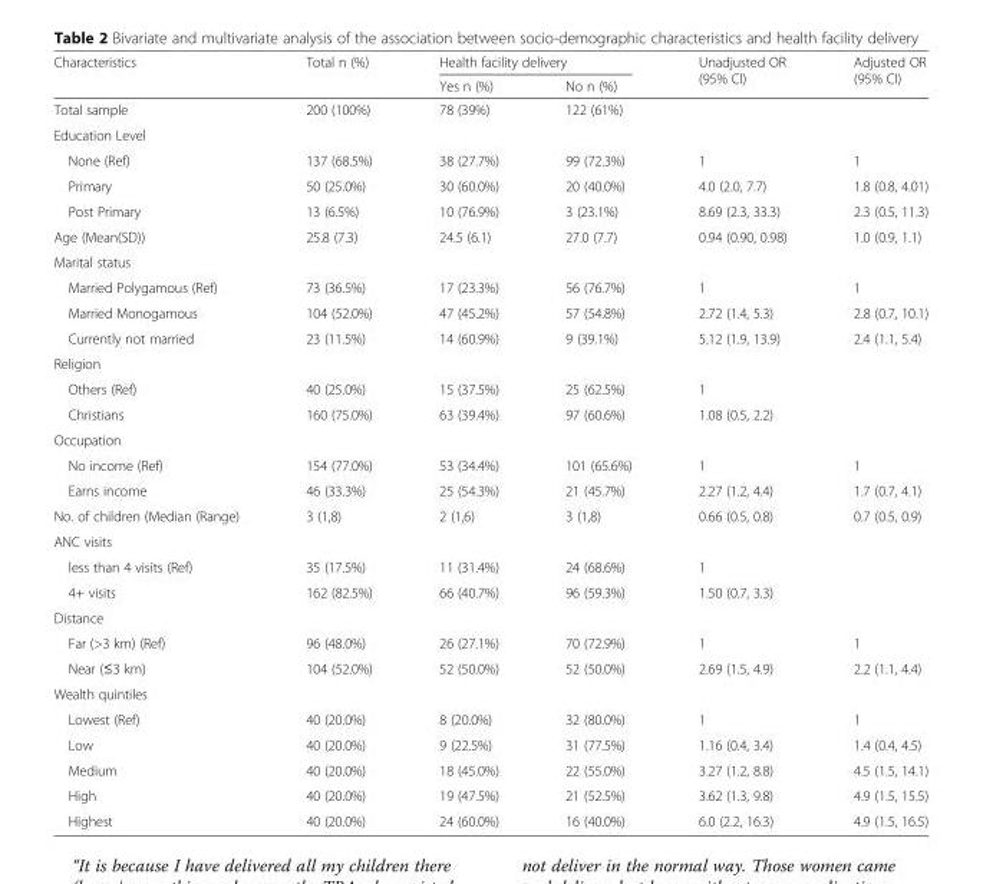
<table><thead><tr><td rowspan="2">Characteristics</td><td rowspan="2">Total n (%)</td><td colspan="2">Health facility delivery</td><td rowspan="2">Unadjusted OR (95% CI)</td><td rowspan="2">Adjusted OR (95% CI)</td></tr><tr><td>Yes n (%)</td><td>No n (%)</td></tr></thead><tbody><tr><td>Total sample</td><td>200 (100%)</td><td>78 (39%)</td><td>122 (61%)</td><td></td><td></td></tr><tr><td colspan="6">Education Level</td></tr><tr><td>None (Ref)</td><td>137 (68.5%)</td><td>38 (27.7%)</td><td>99 (72.3%)</td><td>1</td><td>1</td></tr><tr><td>Primary</td><td>50 (25.0%)</td><td>30 (60.0%)</td><td>20 (40.0%)</td><td>4.0 (2.0, 7.7)</td><td>1.8 (0.8, 4.01)</td></tr><tr><td>Post Primary</td><td>13 (6.5%)</td><td>10 (76.9%)</td><td>3 (23.1%)</td><td>8.69 (2.3, 33.3)</td><td>2.3 (0.5, 11.3)</td></tr><tr><td>Age (Mean(SD))</td><td>25.8 (7.3)</td><td>24.5 (6.1)</td><td>27.0 (7.7)</td><td>0.94 (0.90, 0.98)</td><td>1.0 (0.9, 1.1)</td></tr><tr><td colspan="6">Marital status</td></tr><tr><td>Married Polygamous (Ref)</td><td>73 (36.5%)</td><td>17 (23.3%)</td><td>56 (76.7%)</td><td>1</td><td>1</td></tr><tr><td>Married Monogamous</td><td>104 (52.0%)</td><td>47 (45.2%)</td><td>57 (54.8%)</td><td>2.72 (1.4, 5.3)</td><td>2.8 (0.7, 10.1)</td></tr><tr><td>Currently not married</td><td>23 (11.5%)</td><td>14 (60.9%)</td><td>9 (39.1%)</td><td>5.12 (1.9, 13.9)</td><td>2.4 (1.1, 5.4)</td></tr><tr><td colspan="6">Religion</td></tr><tr><td>Others (Ref)</td><td>40 (25.0%)</td><td>15 (37.5%)</td><td>25 (62.5%)</td><td>1</td><td></td></tr><tr><td>Christians</td><td>160 (75.0%)</td><td>63 (39.4%)</td><td>97 (60.6%)</td><td>1.08 (0.5, 2.2)</td><td></td></tr><tr><td colspan="6">Occupation</td></tr><tr><td>No income (Ref)</td><td>154 (77.0%)</td><td>53 (34.4%)</td><td>101 (65.6%)</td><td>1</td><td>1</td></tr><tr><td>Earns income</td><td>46 (33.3%)</td><td>25 (54.3%)</td><td>21 (45.7%)</td><td>2.27 (1.2, 4.4)</td><td>1.7 (0.7, 4.1)</td></tr><tr><td>No. of children (Median (Range)</td><td>3 (1,8)</td><td>2 (1,6)</td><td>3 (1,8)</td><td>0.66 (0.5, 0.8)</td><td>0.7 (0.5, 0.9)</td></tr><tr><td colspan="6">ANC visits</td></tr><tr><td>less than 4 visits (Ref)</td><td>35 (17.5%)</td><td>11 (31.4%)</td><td>24 (68.6%)</td><td>1</td><td></td></tr><tr><td>4+ visits</td><td>162 (82.5%)</td><td>66 (40.7%)</td><td>96 (59.3%)</td><td>1.50 (0.7, 3.3)</td><td></td></tr><tr><td colspan="6">Distance</td></tr><tr><td>Far (&gt;3 km) (Ref)</td><td>96 (48.0%)</td><td>26 (27.1%)</td><td>70 (72.9%)</td><td>1</td><td>1</td></tr><tr><td>Near (≤3 km)</td><td>104 (52.0%)</td><td>52 (50.0%)</td><td>52 (50.0%)</td><td>2.69 (1.5, 4.9)</td><td>2.2 (1.1, 4.4)</td></tr><tr><td colspan="6">Wealth quintiles</td></tr><tr><td>Lowest (Ref)</td><td>40 (20.0%)</td><td>8 (20.0%)</td><td>32 (80.0%)</td><td>1</td><td>1</td></tr><tr><td>Low</td><td>40 (20.0%)</td><td>9 (22.5%)</td><td>31 (77.5%)</td><td>1.16 (0.4, 3.4)</td><td>1.4 (0.4, 4.5)</td></tr><tr><td>Medium</td><td>40 (20.0%)</td><td>18 (45.0%)</td><td>22 (55.0%)</td><td>3.27 (1.2, 8.8)</td><td>4.5 (1.5, 14.1)</td></tr><tr><td>High</td><td>40 (20.0%)</td><td>19 (47.5%)</td><td>21 (52.5%)</td><td>3.62 (1.3, 9.8)</td><td>4.9 (1.5, 15.5)</td></tr><tr><td>Highest</td><td>40 (20.0%)</td><td>24 (60.0%)</td><td>16 (40.0%)</td><td>6.0 (2.2, 16.3)</td><td>4.9 (1.5, 16.5)</td></tr></tbody></table>